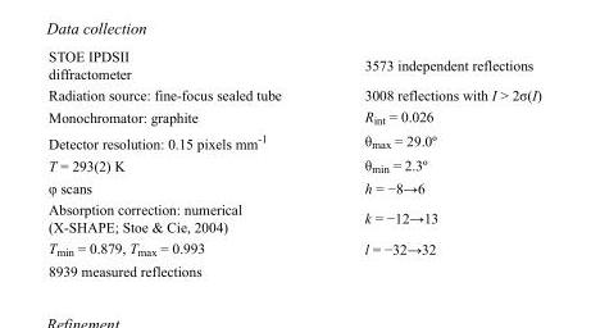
<table><tbody><tr><td>STOE IPDSII diffractometer</td><td>3573 independent reflections</td></tr><tr><td>Radiation source: fine-focus sealed tube</td><td>3008 reflections with I &gt; 2σ(I)</td></tr><tr><td>Monochromator: graphite</td><td>R<sub>int</sub> = 0.026</td></tr><tr><td>Detector resolution: 0.15 pixels mm<sup>-1</sup></td><td>θ<sub>max</sub> = 29.0º</td></tr><tr><td>T = 293(2) K</td><td>θ<sub>min</sub> = 2.3º</td></tr><tr><td>φ scans</td><td>h = −8→6</td></tr><tr><td>Absorption correction: numerical (X-SHAPE; Stoe &amp; Cie, 2004)</td><td>k = −12→13</td></tr><tr><td>T<sub>min</sub> = 0.879, T<sub>max</sub> = 0.993</td><td>l = −32→32</td></tr><tr><td>8939 measured reflections</td><td></td></tr></tbody></table>